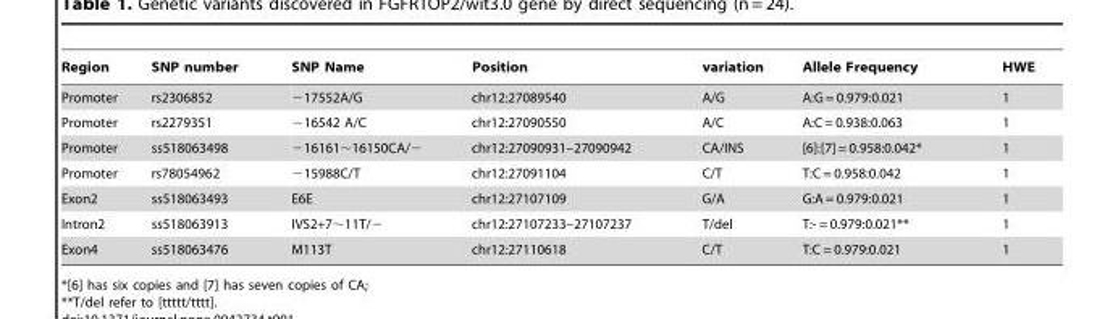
<table><thead><tr><td>Region</td><td>SNP number</td><td>SNP Name</td><td>Position</td><td>variation</td><td>Allele Frequency</td><td>HWE</td></tr></thead><tbody><tr><td>Promoter</td><td>rs2306852</td><td>−17552A/G</td><td>chr12:27089540</td><td>A/G</td><td>A:G = 0.979:0.021</td><td>1</td></tr><tr><td>Promoter</td><td>rs2279351</td><td>−16542 A/C</td><td>chr12:27090550</td><td>A/C</td><td>A:C = 0.938:0.063</td><td>1</td></tr><tr><td>Promoter</td><td>ss518063498</td><td>−16161∼16150CA/−</td><td>chr12:27090931–27090942</td><td>CA/INS</td><td>[6]:[7] = 0.958:0.042*</td><td>1</td></tr><tr><td>Promoter</td><td>rs78054962</td><td>−15988C/T</td><td>chr12:27091104</td><td>C/T</td><td>T:C = 0.958:0.042</td><td>1</td></tr><tr><td>Exon2</td><td>ss518063493</td><td>E6E</td><td>chr12:27107109</td><td>G/A</td><td>G:A = 0.979:0.021</td><td>1</td></tr><tr><td>Intron2</td><td>ss518063913</td><td>IVS2+7∼11T/−</td><td>chr12:27107233–27107237</td><td>T/del</td><td>T:- = 0.979:0.021**</td><td>1</td></tr><tr><td>Exon4</td><td>ss518063476</td><td>M113T</td><td>chr12:27110618</td><td>C/T</td><td>T:C = 0.979:0.021</td><td>1</td></tr></tbody></table>